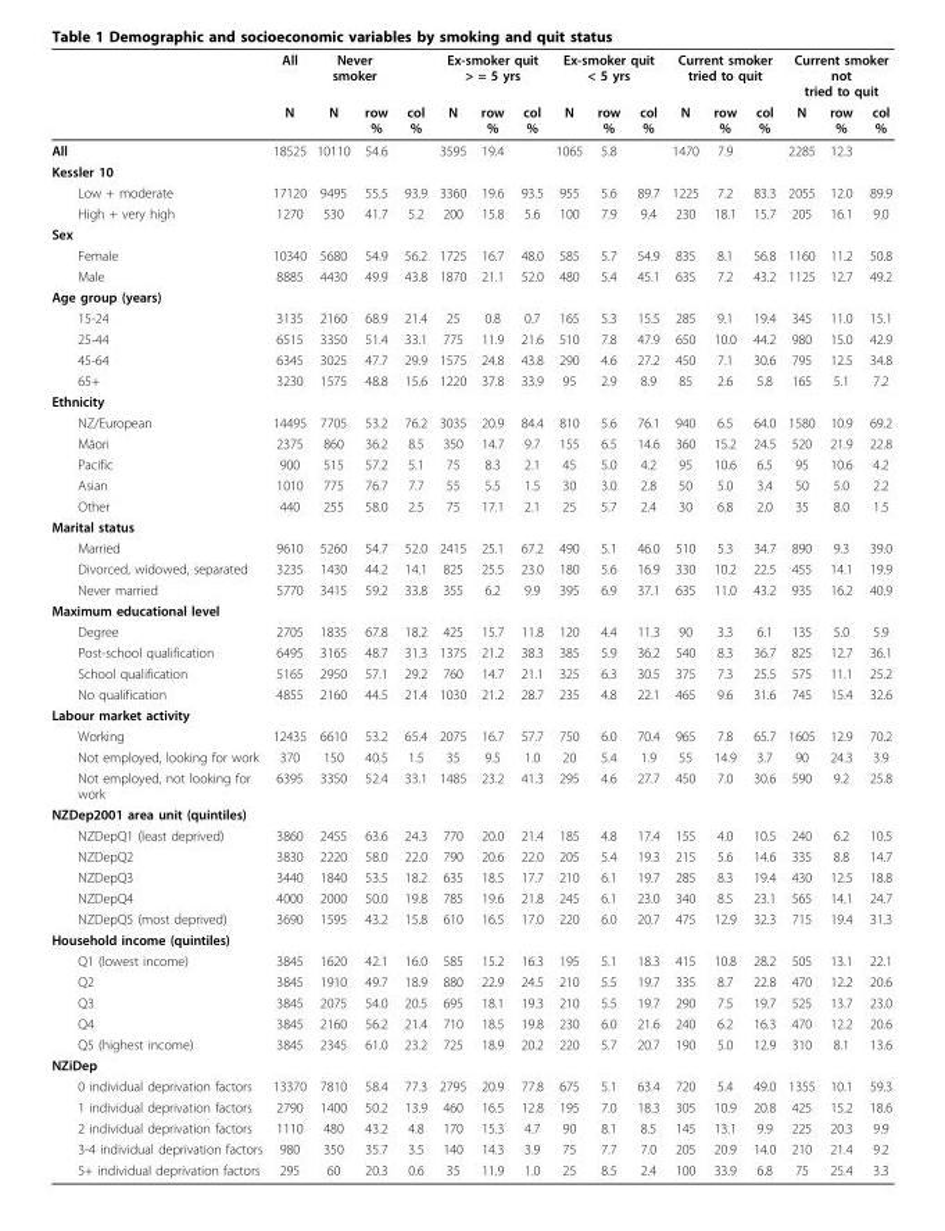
<table><thead><tr><td rowspan="2"></td><td rowspan="2">All N</td><td colspan="2">Never smoker</td><td rowspan="2">col %</td><td colspan="3">Ex-smoker quit &gt; = 5 yrs</td><td colspan="3">Ex-smoker quit &lt; 5 yrs</td><td colspan="3">Current smoker tried to quit</td><td colspan="3">Current smoker not tried to quit</td></tr><tr><td>N</td><td>row %</td><td>N</td><td>row %</td><td>col %</td><td>N</td><td>row %</td><td>col %</td><td>N</td><td>row %</td><td>col %</td><td>N</td><td>row %</td><td>col %</td></tr></thead><tbody><tr><td>All</td><td>18525</td><td>10110</td><td>54.6</td><td></td><td>3595</td><td>19.4</td><td></td><td>1065</td><td>5.8</td><td></td><td>1470</td><td>7.9</td><td></td><td>2285</td><td>12.3</td><td></td></tr><tr><td colspan="17">Kessler 10</td></tr><tr><td>Low + moderate</td><td>17120</td><td>9495</td><td>55.5</td><td>93.9</td><td>3360</td><td>19.6</td><td>93.5</td><td>955</td><td>5.6</td><td>89.7</td><td>1225</td><td>7.2</td><td>83.3</td><td>2055</td><td>12.0</td><td>89.9</td></tr><tr><td>High + very high</td><td>1270</td><td>530</td><td>41.7</td><td>5.2</td><td>200</td><td>15.8</td><td>5.6</td><td>100</td><td>7.9</td><td>9.4</td><td>230</td><td>18.1</td><td>15.7</td><td>205</td><td>16.1</td><td>9.0</td></tr><tr><td colspan="17">Sex</td></tr><tr><td>Female</td><td>10340</td><td>5680</td><td>54.9</td><td>56.2</td><td>1725</td><td>16.7</td><td>48.0</td><td>585</td><td>5.7</td><td>54.9</td><td>835</td><td>8.1</td><td>56.8</td><td>1160</td><td>11.2</td><td>50.8</td></tr><tr><td>Male</td><td>8885</td><td>4430</td><td>49.9</td><td>43.8</td><td>1870</td><td>21.1</td><td>52.0</td><td>480</td><td>5.4</td><td>45.1</td><td>635</td><td>7.2</td><td>43.2</td><td>1125</td><td>12.7</td><td>49.2</td></tr><tr><td colspan="17">Age group (years)</td></tr><tr><td>15-24</td><td>3135</td><td>2160</td><td>68.9</td><td>21.4</td><td>25</td><td>0.8</td><td>0.7</td><td>165</td><td>5.3</td><td>15.5</td><td>285</td><td>9.1</td><td>19.4</td><td>345</td><td>11.0</td><td>15.1</td></tr><tr><td>25-44</td><td>6515</td><td>3350</td><td>51.4</td><td>33.1</td><td>775</td><td>11.9</td><td>21.6</td><td>510</td><td>7.8</td><td>47.9</td><td>650</td><td>10.0</td><td>44.2</td><td>980</td><td>15.0</td><td>42.9</td></tr><tr><td>45-64</td><td>6345</td><td>3025</td><td>47.7</td><td>29.9</td><td>1575</td><td>24.8</td><td>43.8</td><td>290</td><td>4.6</td><td>27.2</td><td>450</td><td>7.1</td><td>30.6</td><td>795</td><td>12.5</td><td>34.8</td></tr><tr><td>65+</td><td>3230</td><td>1575</td><td>48.8</td><td>15.6</td><td>1220</td><td>37.8</td><td>33.9</td><td>95</td><td>2.9</td><td>8.9</td><td>85</td><td>2.6</td><td>5.8</td><td>165</td><td>5.1</td><td>7.2</td></tr><tr><td colspan="17">Ethnicity</td></tr><tr><td>NZ/European</td><td>14495</td><td>7705</td><td>53.2</td><td>76.2</td><td>3035</td><td>20.9</td><td>84.4</td><td>810</td><td>5.6</td><td>76.1</td><td>940</td><td>6.5</td><td>64.0</td><td>1580</td><td>10.9</td><td>69.2</td></tr><tr><td>Māori</td><td>2375</td><td>860</td><td>36.2</td><td>8.5</td><td>350</td><td>14.7</td><td>9.7</td><td>155</td><td>6.5</td><td>14.6</td><td>360</td><td>15.2</td><td>24.5</td><td>520</td><td>21.9</td><td>22.8</td></tr><tr><td>Pacific</td><td>900</td><td>515</td><td>57.2</td><td>5.1</td><td>75</td><td>8.3</td><td>2.1</td><td>45</td><td>5.0</td><td>4.2</td><td>95</td><td>10.6</td><td>6.5</td><td>95</td><td>10.6</td><td>4.2</td></tr><tr><td>Asian</td><td>1010</td><td>775</td><td>76.7</td><td>7.7</td><td>55</td><td>5.5</td><td>1.5</td><td>30</td><td>3.0</td><td>2.8</td><td>50</td><td>5.0</td><td>3.4</td><td>50</td><td>5.0</td><td>2.2</td></tr><tr><td>Other</td><td>440</td><td>255</td><td>58.0</td><td>2.5</td><td>75</td><td>17.1</td><td>2.1</td><td>25</td><td>5.7</td><td>2.4</td><td>30</td><td>6.8</td><td>2.0</td><td>35</td><td>8.0</td><td>1.5</td></tr><tr><td colspan="17">Marital status</td></tr><tr><td>Married</td><td>9610</td><td>5260</td><td>54.7</td><td>52.0</td><td>2415</td><td>25.1</td><td>67.2</td><td>490</td><td>5.1</td><td>46.0</td><td>510</td><td>5.3</td><td>34.7</td><td>890</td><td>9.3</td><td>39.0</td></tr><tr><td>Divorced, widowed, separated</td><td>3235</td><td>1430</td><td>44.2</td><td>14.1</td><td>825</td><td>25.5</td><td>23.0</td><td>180</td><td>5.6</td><td>16.9</td><td>330</td><td>10.2</td><td>22.5</td><td>455</td><td>14.1</td><td>19.9</td></tr><tr><td>Never married</td><td>5770</td><td>3415</td><td>59.2</td><td>33.8</td><td>355</td><td>6.2</td><td>9.9</td><td>395</td><td>6.9</td><td>37.1</td><td>635</td><td>11.0</td><td>43.2</td><td>935</td><td>16.2</td><td>40.9</td></tr><tr><td colspan="17">Maximum educational level</td></tr><tr><td>Degree</td><td>2705</td><td>1835</td><td>67.8</td><td>18.2</td><td>425</td><td>15.7</td><td>11.8</td><td>120</td><td>4.4</td><td>11.3</td><td>90</td><td>3.3</td><td>6.1</td><td>135</td><td>5.0</td><td>5.9</td></tr><tr><td>Post-school qualification</td><td>6495</td><td>3165</td><td>48.7</td><td>31.3</td><td>1375</td><td>21.2</td><td>38.3</td><td>385</td><td>5.9</td><td>36.2</td><td>540</td><td>8.3</td><td>36.7</td><td>825</td><td>12.7</td><td>36.1</td></tr><tr><td>School qualification</td><td>5165</td><td>2950</td><td>57.1</td><td>29.2</td><td>760</td><td>14.7</td><td>21.1</td><td>325</td><td>6.3</td><td>30.5</td><td>375</td><td>7.3</td><td>25.5</td><td>575</td><td>11.1</td><td>25.2</td></tr><tr><td>No qualification</td><td>4855</td><td>2160</td><td>44.5</td><td>21.4</td><td>1030</td><td>21.2</td><td>28.7</td><td>235</td><td>4.8</td><td>22.1</td><td>465</td><td>9.6</td><td>31.6</td><td>745</td><td>15.4</td><td>32.6</td></tr><tr><td colspan="17">Labour market activity</td></tr><tr><td>Working</td><td>12435</td><td>6610</td><td>53.2</td><td>65.4</td><td>2075</td><td>16.7</td><td>57.7</td><td>750</td><td>6.0</td><td>70.4</td><td>965</td><td>7.8</td><td>65.7</td><td>1605</td><td>12.9</td><td>70.2</td></tr><tr><td>Not employed, looking for work</td><td>370</td><td>150</td><td>40.5</td><td>1.5</td><td>35</td><td>9.5</td><td>1.0</td><td>20</td><td>5.4</td><td>1.9</td><td>55</td><td>14.9</td><td>3.7</td><td>90</td><td>24.3</td><td>3.9</td></tr><tr><td>Not employed, not looking for work</td><td>6395</td><td>3350</td><td>52.4</td><td>33.1</td><td>1485</td><td>23.2</td><td>41.3</td><td>295</td><td>4.6</td><td>27.7</td><td>450</td><td>7.0</td><td>30.6</td><td>590</td><td>9.2</td><td>25.8</td></tr><tr><td colspan="17">NZDep2001 area unit (quintiles)</td></tr><tr><td>NZDepQ1 (least deprived)</td><td>3860</td><td>2455</td><td>63.6</td><td>24.3</td><td>770</td><td>20.0</td><td>21.4</td><td>185</td><td>4.8</td><td>17.4</td><td>155</td><td>4.0</td><td>10.5</td><td>240</td><td>6.2</td><td>10.5</td></tr><tr><td>NZDepQ2</td><td>3830</td><td>2220</td><td>58.0</td><td>22.0</td><td>790</td><td>20.6</td><td>22.0</td><td>205</td><td>5.4</td><td>19.3</td><td>215</td><td>5.6</td><td>14.6</td><td>335</td><td>8.8</td><td>14.7</td></tr><tr><td>NZDepQ3</td><td>3440</td><td>1840</td><td>53.5</td><td>18.2</td><td>635</td><td>18.5</td><td>17.7</td><td>210</td><td>6.1</td><td>19.7</td><td>285</td><td>8.3</td><td>19.4</td><td>430</td><td>12.5</td><td>18.8</td></tr><tr><td>NZDepQ4</td><td>4000</td><td>2000</td><td>50.0</td><td>19.8</td><td>785</td><td>19.6</td><td>21.8</td><td>245</td><td>6.1</td><td>23.0</td><td>340</td><td>8.5</td><td>23.1</td><td>565</td><td>14.1</td><td>24.7</td></tr><tr><td>NZDepQ5 (most deprived)</td><td>3690</td><td>1595</td><td>43.2</td><td>15.8</td><td>610</td><td>16.5</td><td>17.0</td><td>220</td><td>6.0</td><td>20.7</td><td>475</td><td>12.9</td><td>32.3</td><td>715</td><td>19.4</td><td>31.3</td></tr><tr><td colspan="17">Household income (quintiles)</td></tr><tr><td>Q1 (lowest income)</td><td>3845</td><td>1620</td><td>42.1</td><td>16.0</td><td>585</td><td>15.2</td><td>16.3</td><td>195</td><td>5.1</td><td>18.3</td><td>415</td><td>10.8</td><td>28.2</td><td>505</td><td>13.1</td><td>22.1</td></tr><tr><td>Q2</td><td>3845</td><td>1910</td><td>49.7</td><td>18.9</td><td>880</td><td>22.9</td><td>24.5</td><td>210</td><td>5.5</td><td>19.7</td><td>335</td><td>8.7</td><td>22.8</td><td>470</td><td>12.2</td><td>20.6</td></tr><tr><td>Q3</td><td>3845</td><td>2075</td><td>54.0</td><td>20.5</td><td>695</td><td>18.1</td><td>19.3</td><td>210</td><td>5.5</td><td>19.7</td><td>290</td><td>7.5</td><td>19.7</td><td>525</td><td>13.7</td><td>23.0</td></tr><tr><td>Q4</td><td>3845</td><td>2160</td><td>56.2</td><td>21.4</td><td>710</td><td>18.5</td><td>19.8</td><td>230</td><td>6.0</td><td>21.6</td><td>240</td><td>6.2</td><td>16.3</td><td>470</td><td>12.2</td><td>20.6</td></tr><tr><td>Q5 (highest income)</td><td>3845</td><td>2345</td><td>61.0</td><td>23.2</td><td>725</td><td>18.9</td><td>20.2</td><td>220</td><td>5.7</td><td>20.7</td><td>190</td><td>5.0</td><td>12.9</td><td>310</td><td>8.1</td><td>13.6</td></tr><tr><td colspan="17">NZiDep</td></tr><tr><td>0 individual deprivation factors</td><td>13370</td><td>7810</td><td>58.4</td><td>77.3</td><td>2795</td><td>20.9</td><td>77.8</td><td>675</td><td>5.1</td><td>63.4</td><td>720</td><td>5.4</td><td>49.0</td><td>1355</td><td>10.1</td><td>59.3</td></tr><tr><td>1 individual deprivation factors</td><td>2790</td><td>1400</td><td>50.2</td><td>13.9</td><td>460</td><td>16.5</td><td>12.8</td><td>195</td><td>7.0</td><td>18.3</td><td>305</td><td>10.9</td><td>20.8</td><td>425</td><td>15.2</td><td>18.6</td></tr><tr><td>2 individual deprivation factors</td><td>1110</td><td>480</td><td>43.2</td><td>4.8</td><td>170</td><td>15.3</td><td>4.7</td><td>90</td><td>8.1</td><td>8.5</td><td>145</td><td>13.1</td><td>9.9</td><td>225</td><td>20.3</td><td>9.9</td></tr><tr><td>3-4 individual deprivation factors</td><td>980</td><td>350</td><td>35.7</td><td>3.5</td><td>140</td><td>14.3</td><td>3.9</td><td>75</td><td>7.7</td><td>7.0</td><td>205</td><td>20.9</td><td>14.0</td><td>210</td><td>21.4</td><td>9.2</td></tr><tr><td>5+ individual deprivation factors</td><td>295</td><td>60</td><td>20.3</td><td>0.6</td><td>35</td><td>11.9</td><td>1.0</td><td>25</td><td>8.5</td><td>2.4</td><td>100</td><td>33.9</td><td>6.8</td><td>75</td><td>25.4</td><td>3.3</td></tr></tbody></table>